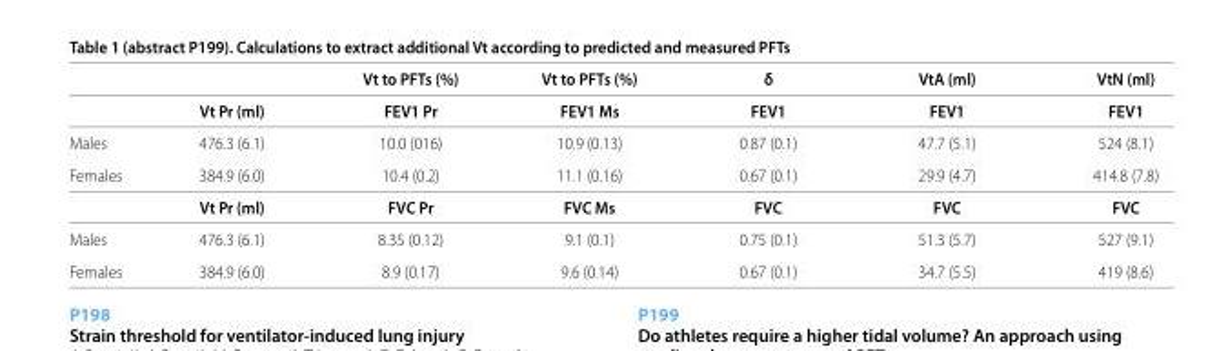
<table><thead><tr><td></td><td></td><td>Vt to PFTs (%)</td><td>Vt to PFTs (%)</td><td>δ</td><td>VtA (ml)</td><td>VtN (ml)</td></tr></thead><tbody><tr><td></td><td>Vt Pr (ml)</td><td>FEV1 Pr</td><td>FEV1 Ms</td><td>FEV1</td><td>FEV1</td><td>FEV1</td></tr><tr><td>Males</td><td>476.3 (6.1)</td><td>10.0 (016)</td><td>10.9 (0.13)</td><td>0.87 (0.1)</td><td>47.7 (5.1)</td><td>524 (8.1)</td></tr><tr><td rowspan="2">Females</td><td>384.9 (6.0)</td><td>10.4 (0.2)</td><td>11.1 (0.16)</td><td>0.67 (0.1)</td><td>29.9 (4.7)</td><td>414.8 (7.8)</td></tr><tr><td>Vt Pr (ml)</td><td>FVC Pr</td><td>FVC Ms</td><td>FVC</td><td>FVC</td><td>FVC</td></tr><tr><td>Males</td><td>476.3 (6.1)</td><td>8.35 (0.12)</td><td>9.1 (0.1)</td><td>0.75 (0.1)</td><td>51.3 (5.7)</td><td>527 (9.1)</td></tr><tr><td>Females</td><td>384.9 (6.0)</td><td>8.9 (0.17)</td><td>9.6 (0.14)</td><td>0.67 (0.1)</td><td>34.7 (5.5)</td><td>419 (8.6)</td></tr></tbody></table>